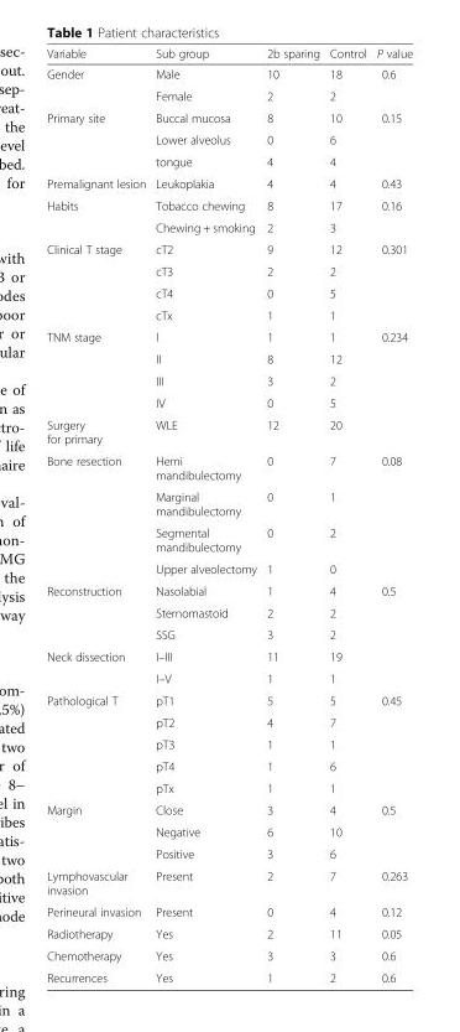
<table><thead><tr><td>Variable</td><td>Sub group</td><td>2b sparing</td><td>Control</td><td>P value</td></tr></thead><tbody><tr><td rowspan="2">Gender</td><td>Male</td><td>10</td><td>18</td><td rowspan="2">0.6</td></tr><tr><td>Female</td><td>2</td><td>2</td></tr><tr><td rowspan="3">Primary site</td><td>Buccal mucosa</td><td>8</td><td>10</td><td rowspan="3">0.15</td></tr><tr><td>Lower alveolus</td><td>0</td><td>6</td></tr><tr><td>tongue</td><td>4</td><td>4</td></tr><tr><td>Premalignant lesion</td><td>Leukoplakia</td><td>4</td><td>4</td><td>0.43</td></tr><tr><td rowspan="2">Habits</td><td>Tobacco chewing</td><td>8</td><td>17</td><td rowspan="2">0.16</td></tr><tr><td>Chewing + smoking</td><td>2</td><td>3</td></tr><tr><td rowspan="4">Clinical T stage</td><td>cT2</td><td>9</td><td>12</td><td rowspan="4">0.301</td></tr><tr><td>cT3</td><td>2</td><td>2</td></tr><tr><td>cT4</td><td>0</td><td>5</td></tr><tr><td>cTx</td><td>1</td><td>1</td></tr><tr><td rowspan="4">TNM stage</td><td>I</td><td>1</td><td>1</td><td rowspan="4">0.234</td></tr><tr><td>II</td><td>8</td><td>12</td></tr><tr><td>III</td><td>3</td><td>2</td></tr><tr><td>IV</td><td>0</td><td>5</td></tr><tr><td>Surgery for primary</td><td>WLE</td><td>12</td><td>20</td><td></td></tr><tr><td rowspan="4">Bone resection</td><td>Hemi mandibulectomy</td><td>0</td><td>7</td><td rowspan="4">0.08</td></tr><tr><td>Marginal mandibulectomy</td><td>0</td><td>1</td></tr><tr><td>Segmental mandibulectomy</td><td>0</td><td>2</td></tr><tr><td>Upper alveolectomy</td><td>1</td><td>0</td></tr><tr><td rowspan="3">Reconstruction</td><td>Nasolabial</td><td>1</td><td>4</td><td rowspan="3">0.5</td></tr><tr><td>Sternomastoid</td><td>2</td><td>2</td></tr><tr><td>SSG</td><td>3</td><td>2</td></tr><tr><td rowspan="2">Neck dissection</td><td>I–III</td><td>11</td><td>19</td><td rowspan="2"></td></tr><tr><td>I–V</td><td>1</td><td>1</td></tr><tr><td rowspan="5">Pathological T</td><td>pT1</td><td>5</td><td>5</td><td rowspan="5">0.45</td></tr><tr><td>pT2</td><td>4</td><td>7</td></tr><tr><td>pT3</td><td>1</td><td>1</td></tr><tr><td>pT4</td><td>1</td><td>6</td></tr><tr><td>pTx</td><td>1</td><td>1</td></tr><tr><td rowspan="3">Margin</td><td>Close</td><td>3</td><td>4</td><td rowspan="3">0.5</td></tr><tr><td>Negative</td><td>6</td><td>10</td></tr><tr><td>Positive</td><td>3</td><td>6</td></tr><tr><td>Lymphovascular invasion</td><td>Present</td><td>2</td><td>7</td><td>0.263</td></tr><tr><td>Perineural invasion</td><td>Present</td><td>0</td><td>4</td><td>0.12</td></tr><tr><td>Radiotherapy</td><td>Yes</td><td>2</td><td>11</td><td>0.05</td></tr><tr><td>Chemotherapy</td><td>Yes</td><td>3</td><td>3</td><td>0.6</td></tr><tr><td>Recurrences</td><td>Yes</td><td>1</td><td>2</td><td>0.6</td></tr></tbody></table>